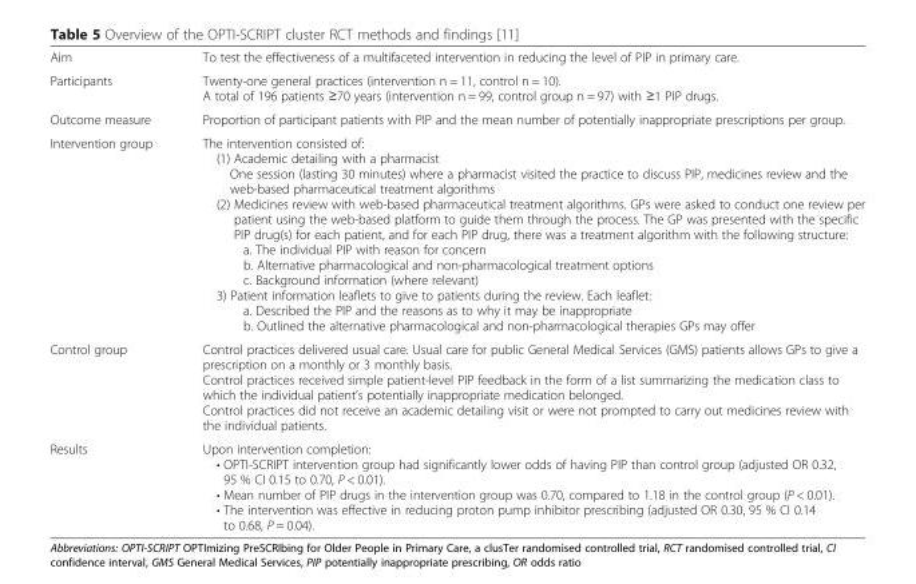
<table><tbody><tr><td>Aim</td><td>To test the effectiveness of a multifaceted intervention in reducing the level of PIP in primary care.</td></tr><tr><td>Participants</td><td>Twenty-one general practices (intervention n = 11, control n = 10). A total of 196 patients ≥70 years (intervention n = 99, control group n = 97) with ≥1 PIP drugs.</td></tr><tr><td>Outcome measure</td><td>Proportion of participant patients with PIP and the mean number of potentially inappropriate prescriptions per group.</td></tr><tr><td>Intervention group</td><td>The intervention consisted of: (1) Academic detailing with a pharmacist One session (lasting 30 minutes) where a pharmacist visited the practice to discuss PIP, medicines review and the web-based pharmaceutical treatment algorithms (2) Medicines review with web-based pharmaceutical treatment algorithms. GPs were asked to conduct one review per patient using the web-based platform to guide them through the process. The GP was presented with the specific PIP drug(s) for each patient, and for each PIP drug, there was a treatment algorithm with the following structure: a. The individual PIP with reason for concern b. Alternative pharmacological and non-pharmacological treatment options c. Background information (where relevant) 3) Patient information leaflets to give to patients during the review. Each leaflet: a. Described the PIP and the reasons as to why it may be inappropriate b. Outlined the alternative pharmacological and non-pharmacological therapies GPs may offer</td></tr><tr><td>Control group</td><td>Control practices delivered usual care. Usual care for public General Medical Services (GMS) patients allows GPs to give a prescription on a monthly or 3 monthly basis. Control practices received simple patient-level PIP feedback in the form of a list summarizing the medication class to which the individual patient’s potentially inappropriate medication belonged. Control practices did not receive an academic detailing visit or were not prompted to carry out medicines review with the individual patients.</td></tr><tr><td>Results</td><td>Upon intervention completion: • OPTI-SCRIPT intervention group had significantly lower odds of having PIP than control group (adjusted OR 0.32, 95 % CI 0.15 to 0.70, P &lt; 0.01). • Mean number of PIP drugs in the intervention group was 0.70, compared to 1.18 in the control group (P &lt; 0.01). • The intervention was effective in reducing proton pump inhibitor prescribing (adjusted OR 0.30, 95 % CI 0.14 to 0.68, P = 0.04).</td></tr></tbody></table>